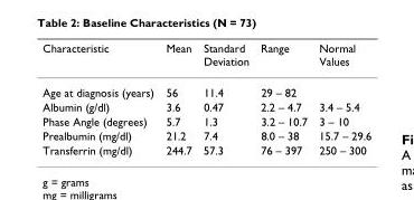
<table><thead><tr><td>Characteristic</td><td>Mean</td><td>Standard Deviation</td><td>Range</td><td>Normal Values</td></tr></thead><tbody><tr><td>Age at diagnosis (years)</td><td>56</td><td>11.4</td><td>29 – 82</td><td></td></tr><tr><td>Albumin (g/dl)</td><td>3.6</td><td>0.47</td><td>2.2 – 4.7</td><td>3.4 – 5.4</td></tr><tr><td>Phase Angle (degrees)</td><td>5.7</td><td>1.3</td><td>3.2 – 10.7</td><td>3 – 10</td></tr><tr><td>Prealbumin (mg/dl)</td><td>21.2</td><td>7.4</td><td>8.0 – 38</td><td>15.7 – 29.6</td></tr><tr><td>Transferrin (mg/dl)</td><td>244.7</td><td>57.3</td><td>76 – 397</td><td>250 – 300</td></tr></tbody></table>